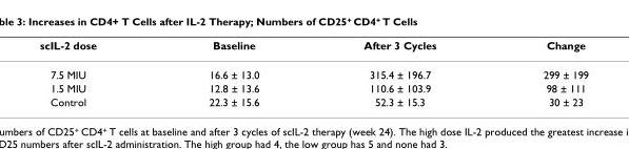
<table><thead><tr><td>scIL-2 dose</td><td>Baseline</td><td>After 3 Cycles</td><td>Change</td></tr></thead><tbody><tr><td>7.5 MIU</td><td>16.6 ± 13.0</td><td>315.4 ± 196.7</td><td>299 ± 199</td></tr><tr><td>1.5 MIU</td><td>12.8 ± 13.6</td><td>110.6 ± 103.9</td><td>98 ± 111</td></tr><tr><td>Control</td><td>22.3 ± 15.6</td><td>52.3 ± 15.3</td><td>30 ± 23</td></tr></tbody></table>